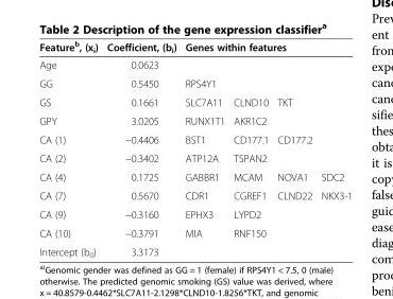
<table><thead><tr><td rowspan="2">Feature<sup>b</sup>, (x<sub>i</sub>) Age</td><td rowspan="2">Coefficient, (b<sub>i</sub>) 0.0623</td><td colspan="4">Genes within features</td></tr><tr><td></td><td></td><td></td><td></td></tr></thead><tbody><tr><td>GG</td><td>0.5450</td><td>RPS4Y1</td><td></td><td></td><td></td></tr><tr><td>GS</td><td>0.1661</td><td>SLC7A11</td><td>CLND10</td><td>TKT</td><td></td></tr><tr><td>GPY</td><td>3.0205</td><td>RUNX1T1</td><td>AKR1C2</td><td></td><td></td></tr><tr><td>CA (1)</td><td>−0.4406</td><td>BST1</td><td>CD177.1</td><td>CD177.2</td><td></td></tr><tr><td>CA (2)</td><td>−0.3402</td><td>ATP12A</td><td>TSPAN2</td><td></td><td></td></tr><tr><td>CA (4)</td><td>0.1725</td><td>GABBR1</td><td>MCAM</td><td>NOVA1</td><td>SDC2</td></tr><tr><td>CA (7)</td><td>0.5670</td><td>CDR1</td><td>CGREF1</td><td>CLND22</td><td>NKX3-1</td></tr><tr><td>CA (9)</td><td>−0.3160</td><td>EPHX3</td><td>LYPD2</td><td></td><td></td></tr><tr><td>CA (10)</td><td>−0.3791</td><td>MIA</td><td>RNF150</td><td></td><td></td></tr><tr><td>Intercept (b<sub>0</sub>)</td><td>3.3173</td><td></td><td></td><td></td><td></td></tr></tbody></table>